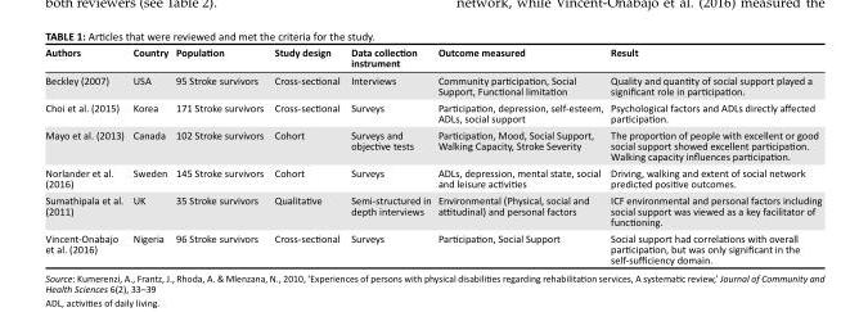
<table><thead><tr><td>Authors</td><td>Country</td><td>Population</td><td>Study design</td><td>Data collection instrument</td><td>Outcome measured</td><td>Result</td></tr></thead><tbody><tr><td>Beckley (2007)</td><td>USA</td><td>95 Stroke survivors</td><td>Cross-sectional</td><td>Interviews</td><td>Community participation, Social Support, Functional limitation</td><td>Quality and quantity of social support played a significant role in participation.</td></tr><tr><td>Choi et al. (2015)</td><td>Korea</td><td>171 Stroke survivors</td><td>Cross-sectional</td><td>Surveys</td><td>Participation, depression, self-esteem, ADLs, social support</td><td>Psychological factors and ADLs directly affected participation.</td></tr><tr><td>Mayo et al. (2013)</td><td>Canada</td><td>102 Stroke survivors</td><td>Cohort</td><td>Surveys and objective tests</td><td>Participation, Mood, Social Support, Walking Capacity, Stroke Severity</td><td>The proportion of people with excellent or good social support showed excellent participation. Walking capacity influences participation.</td></tr><tr><td>Norlander et al. (2016)</td><td>Sweden</td><td>145 Stroke survivors</td><td>Cohort</td><td>Surveys</td><td>ADLs, depression, mental state, social and leisure activities</td><td>Driving, walking and extent of social network predicted positive outcomes.</td></tr><tr><td>Sumathipala et al. (2011)</td><td>UK</td><td>35 Stroke survivors</td><td>Qualitative</td><td>Semi-structured in depth interviews</td><td>Environmental (Physical, social and attitudinal) and personal factors</td><td>ICF environmental and personal factors including social support was viewed as a key facilitator of functioning.</td></tr><tr><td>Vincent-Onabajo et al. (2016)</td><td>Nigeria</td><td>96 Stroke survivors</td><td>Cross-sectional</td><td>Surveys</td><td>Participation, Social Support</td><td>Social support had correlations with overall participation, but was only significant in the self-sufficiency domain.</td></tr></tbody></table>